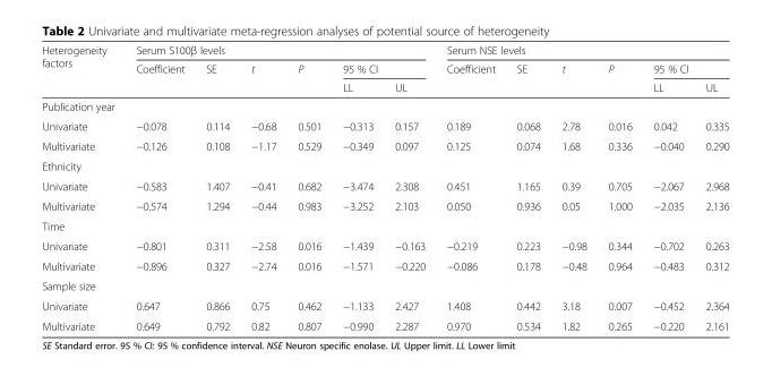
<table><thead><tr><td rowspan="3">Heterogeneity factors</td><td colspan="6">Serum S100β levels</td><td colspan="6">Serum NSE levels</td></tr><tr><td rowspan="2">Coefficient</td><td rowspan="2">SE</td><td rowspan="2">t</td><td rowspan="2">P</td><td colspan="2">95 % CI</td><td rowspan="2">Coefficient</td><td rowspan="2">SE</td><td rowspan="2">t</td><td rowspan="2">P</td><td colspan="2">95 % CI</td></tr><tr><td>LL</td><td>UL</td><td>LL</td><td>UL</td></tr></thead><tbody><tr><td colspan="13">Publication year</td></tr><tr><td>Univariate</td><td>−0.078</td><td>0.114</td><td>−0.68</td><td>0.501</td><td>−0.313</td><td>0.157</td><td>0.189</td><td>0.068</td><td>2.78</td><td>0.016</td><td>0.042</td><td>0.335</td></tr><tr><td>Multivariate</td><td>−0.126</td><td>0.108</td><td>−1.17</td><td>0.529</td><td>−0.349</td><td>0.097</td><td>0.125</td><td>0.074</td><td>1.68</td><td>0.336</td><td>−0.040</td><td>0.290</td></tr><tr><td colspan="13">Ethnicity</td></tr><tr><td>Univariate</td><td>−0.583</td><td>1.407</td><td>−0.41</td><td>0.682</td><td>−3.474</td><td>2.308</td><td>0.451</td><td>1.165</td><td>0.39</td><td>0.705</td><td>−2.067</td><td>2.968</td></tr><tr><td>Multivariate</td><td>−0.574</td><td>1.294</td><td>−0.44</td><td>0.983</td><td>−3.252</td><td>2.103</td><td>0.050</td><td>0.936</td><td>0.05</td><td>1.000</td><td>−2.035</td><td>2.136</td></tr><tr><td colspan="13">Time</td></tr><tr><td>Univariate</td><td>−0.801</td><td>0.311</td><td>−2.58</td><td>0.016</td><td>−1.439</td><td>−0.163</td><td>−0.219</td><td>0.223</td><td>−0.98</td><td>0.344</td><td>−0.702</td><td>0.263</td></tr><tr><td>Multivariate</td><td>−0.896</td><td>0.327</td><td>−2.74</td><td>0.016</td><td>−1.571</td><td>−0.220</td><td>−0.086</td><td>0.178</td><td>−0.48</td><td>0.964</td><td>−0.483</td><td>0.312</td></tr><tr><td colspan="13">Sample size</td></tr><tr><td>Univariate</td><td>0.647</td><td>0.866</td><td>0.75</td><td>0.462</td><td>−1.133</td><td>2.427</td><td>1.408</td><td>0.442</td><td>3.18</td><td>0.007</td><td>−0.452</td><td>2.364</td></tr><tr><td>Multivariate</td><td>0.649</td><td>0.792</td><td>0.82</td><td>0.807</td><td>−0.990</td><td>2.287</td><td>0.970</td><td>0.534</td><td>1.82</td><td>0.265</td><td>−0.220</td><td>2.161</td></tr></tbody></table>